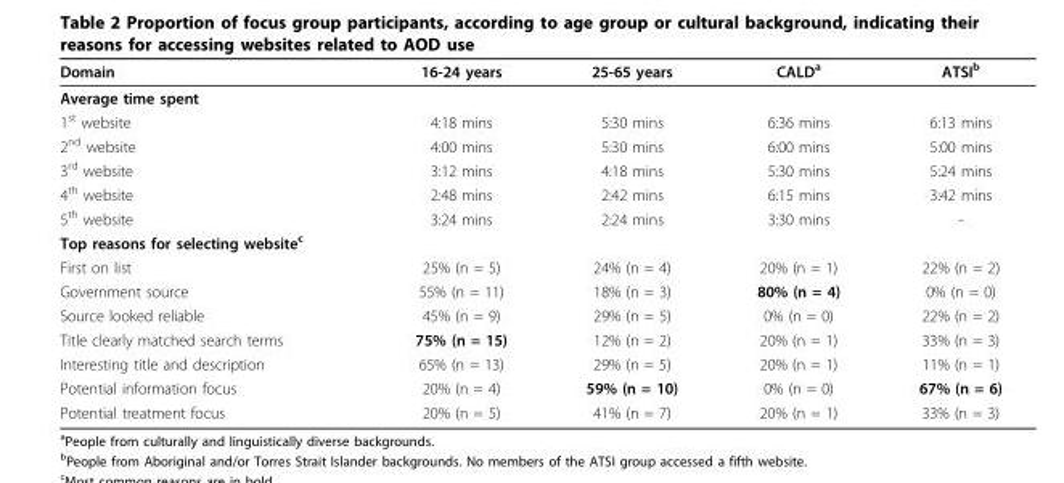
<table><thead><tr><td>Domain</td><td>16-24 years</td><td>25-65 years</td><td>CALD<sup>a</sup></td><td>ATSI<sup>b</sup></td></tr></thead><tbody><tr><td colspan="5">Average time spent</td></tr><tr><td>1<sup>st</sup> website</td><td>4:18 mins</td><td>5:30 mins</td><td>6:36 mins</td><td>6:13 mins</td></tr><tr><td>2<sup>nd</sup> website</td><td>4:00 mins</td><td>5:30 mins</td><td>6:00 mins</td><td>5:00 mins</td></tr><tr><td>3<sup>rd</sup> website</td><td>3:12 mins</td><td>4:18 mins</td><td>5:30 mins</td><td>5:24 mins</td></tr><tr><td>4<sup>th</sup> website</td><td>2:48 mins</td><td>2:42 mins</td><td>6:15 mins</td><td>3:42 mins</td></tr><tr><td>5<sup>th</sup> website</td><td>3:24 mins</td><td>2:24 mins</td><td>3:30 mins</td><td>-</td></tr><tr><td colspan="5">Top reasons for selecting website<sup>c</sup></td></tr><tr><td>First on list</td><td>25% (n = 5)</td><td>24% (n = 4)</td><td>20% (n = 1)</td><td>22% (n = 2)</td></tr><tr><td>Government source</td><td>55% (n = 11)</td><td>18% (n = 3)</td><td>80% (n = 4)</td><td>0% (n = 0)</td></tr><tr><td>Source looked reliable</td><td>45% (n = 9)</td><td>29% (n = 5)</td><td>0% (n = 0)</td><td>22% (n = 2)</td></tr><tr><td>Title clearly matched search terms</td><td>75% (n = 15)</td><td>12% (n = 2)</td><td>20% (n = 1)</td><td>33% (n = 3)</td></tr><tr><td>Interesting title and description</td><td>65% (n = 13)</td><td>29% (n = 5)</td><td>20% (n = 1)</td><td>11% (n = 1)</td></tr><tr><td>Potential information focus</td><td>20% (n = 4)</td><td>59% (n = 10)</td><td>0% (n = 0)</td><td>67% (n = 6)</td></tr><tr><td>Potential treatment focus</td><td>20% (n = 5)</td><td>41% (n = 7)</td><td>20% (n = 1)</td><td>33% (n = 3)</td></tr></tbody></table>